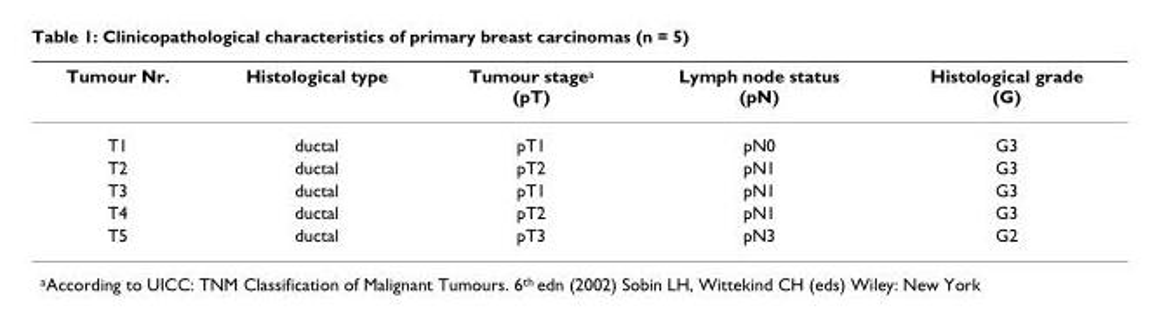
<table><thead><tr><td>Tumour Nr.</td><td>Histological type</td><td>Tumour stage<sup>a</sup> (pT)</td><td>Lymph node status (pN)</td><td>Histological grade (G)</td></tr></thead><tbody><tr><td>T1</td><td>ductal</td><td>pT1</td><td>pN0</td><td>G3</td></tr><tr><td>T2</td><td>ductal</td><td>pT2</td><td>pN1</td><td>G3</td></tr><tr><td>T3</td><td>ductal</td><td>pT1</td><td>pN1</td><td>G3</td></tr><tr><td>T4</td><td>ductal</td><td>pT2</td><td>pN1</td><td>G3</td></tr><tr><td>T5</td><td>ductal</td><td>pT3</td><td>pN3</td><td>G2</td></tr></tbody></table>